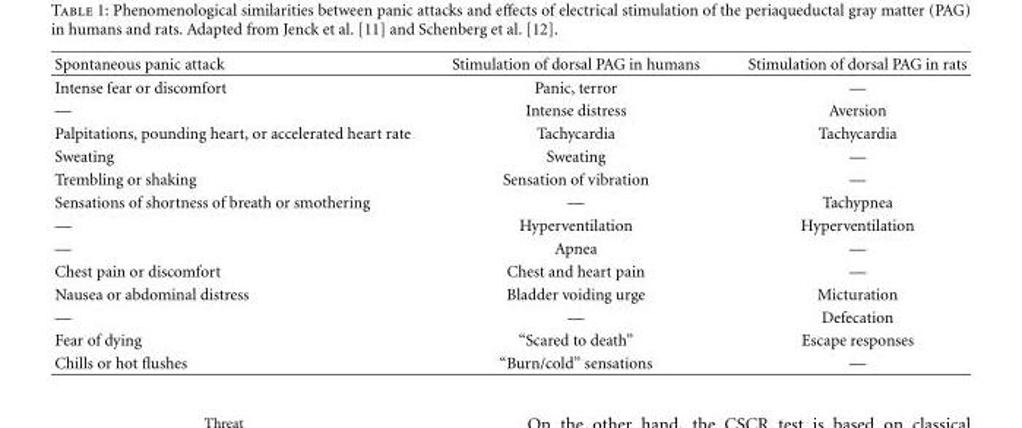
<table><thead><tr><td>Spontaneous panic attack</td><td>Stimulation of dorsal PAG in humans</td><td>Stimulation of dorsal PAG in rats</td></tr></thead><tbody><tr><td>Intense fear or discomfort</td><td>Panic, terror</td><td>—</td></tr><tr><td>—</td><td>Intense distress</td><td>Aversion</td></tr><tr><td>Palpitations, pounding heart, or accelerated heart rate</td><td>Tachycardia</td><td>Tachycardia</td></tr><tr><td>Sweating</td><td>Sweating</td><td>—</td></tr><tr><td>Trembling or shaking</td><td>Sensation of vibration</td><td>—</td></tr><tr><td>Sensations of shortness of breath or smothering</td><td>—</td><td>Tachypnea</td></tr><tr><td>—</td><td>Hyperventilation</td><td>Hyperventilation</td></tr><tr><td>—</td><td>Apnea</td><td>—</td></tr><tr><td>Chest pain or discomfort</td><td>Chest and heart pain</td><td>—</td></tr><tr><td>Nausea or abdominal distress</td><td>Bladder voiding urge</td><td>Micturation</td></tr><tr><td>—</td><td>—</td><td>Defecation</td></tr><tr><td>Fear of dying</td><td>“Scared to death”</td><td>Escape responses</td></tr><tr><td>Chills or hot flushes</td><td>“Burn/cold” sensations</td><td>—</td></tr></tbody></table>